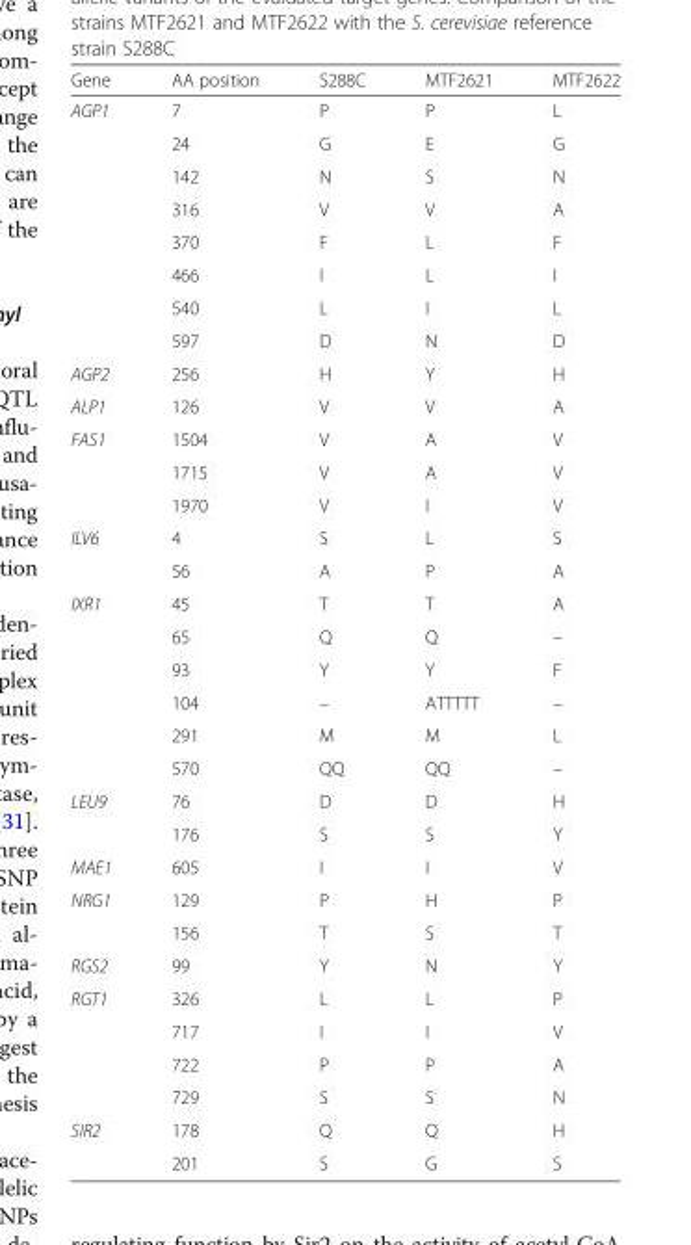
<table><thead><tr><td>Gene</td><td>AA position</td><td>S288C</td><td>MTF2621</td><td>MTF2622</td></tr></thead><tbody><tr><td rowspan="8">AGP1</td><td>7</td><td>P</td><td>P</td><td>L</td></tr><tr><td>24</td><td>G</td><td>E</td><td>G</td></tr><tr><td>142</td><td>N</td><td>S</td><td>N</td></tr><tr><td>316</td><td>V</td><td>V</td><td>A</td></tr><tr><td>370</td><td>F</td><td>L</td><td>F</td></tr><tr><td>466</td><td>I</td><td>L</td><td>I</td></tr><tr><td>540</td><td>L</td><td>I</td><td>L</td></tr><tr><td>597</td><td>D</td><td>N</td><td>D</td></tr><tr><td>AGP2</td><td>256</td><td>H</td><td>Y</td><td>H</td></tr><tr><td>ALP1</td><td>126</td><td>V</td><td>V</td><td>A</td></tr><tr><td rowspan="3">FAS1</td><td>1504</td><td>V</td><td>A</td><td>V</td></tr><tr><td>1715</td><td>V</td><td>A</td><td>V</td></tr><tr><td>1970</td><td>V</td><td>I</td><td>V</td></tr><tr><td rowspan="2">ILV6</td><td>4</td><td>S</td><td>L</td><td>S</td></tr><tr><td>56</td><td>A</td><td>P</td><td>A</td></tr><tr><td rowspan="6">IXR1</td><td>45</td><td>T</td><td>T</td><td>A</td></tr><tr><td>65</td><td>Q</td><td>Q</td><td>–</td></tr><tr><td>93</td><td>Y</td><td>Y</td><td>F</td></tr><tr><td>104</td><td>–</td><td>ATTTTT</td><td>–</td></tr><tr><td>291</td><td>M</td><td>M</td><td>L</td></tr><tr><td>570</td><td>QQ</td><td>QQ</td><td>–</td></tr><tr><td rowspan="2">LEU9</td><td>76</td><td>D</td><td>D</td><td>H</td></tr><tr><td>176</td><td>S</td><td>S</td><td>Y</td></tr><tr><td>MAE1</td><td>605</td><td>I</td><td>I</td><td>V</td></tr><tr><td rowspan="2">NRG1</td><td>129</td><td>P</td><td>H</td><td>P</td></tr><tr><td>156</td><td>T</td><td>S</td><td>T</td></tr><tr><td>RGS2</td><td>99</td><td>Y</td><td>N</td><td>Y</td></tr><tr><td rowspan="4">RGT1</td><td>326</td><td>L</td><td>L</td><td>P</td></tr><tr><td>717</td><td>I</td><td>I</td><td>V</td></tr><tr><td>722</td><td>P</td><td>P</td><td>A</td></tr><tr><td>729</td><td>S</td><td>S</td><td>N</td></tr><tr><td rowspan="2">SIR2</td><td>178</td><td>Q</td><td>Q</td><td>H</td></tr><tr><td>201</td><td>S</td><td>G</td><td>S</td></tr></tbody></table>